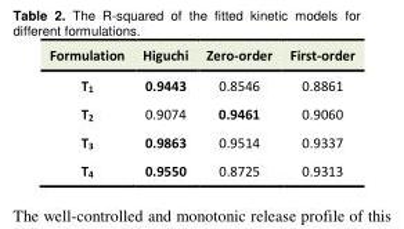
<table><tbody><tr><td>Formulation</td><td>Higuchi</td><td>Zero-order</td><td>First-order</td></tr><tr><td>T<sub>1</sub></td><td>0.9443</td><td>0.8546</td><td>0.8861</td></tr><tr><td>T<sub>2</sub></td><td>0.9074</td><td>0.9461</td><td>0.9060</td></tr><tr><td>T<sub>3</sub></td><td>0.9863</td><td>0.9514</td><td>0.9337</td></tr><tr><td>T<sub>4</sub></td><td>0.9550</td><td>0.8725</td><td>0.9313</td></tr></tbody></table>